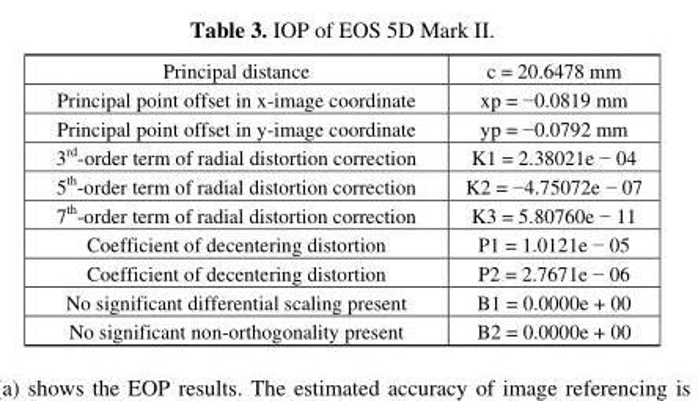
<table><tbody><tr><td>Principal distance</td><td>c = 20.6478 mm</td></tr><tr><td>Principal point offset in x-image coordinate</td><td>xp = −0.0819 mm</td></tr><tr><td>Principal point offset in y-image coordinate</td><td>yp = −0.0792 mm</td></tr><tr><td>3<sup>rd</sup>-order term of radial distortion correction</td><td>K1 = 2.38021e − 04</td></tr><tr><td>5<sup>th</sup>-order term of radial distortion correction</td><td>K2 = −4.75072e − 07</td></tr><tr><td>7<sup>th</sup>-order term of radial distortion correction</td><td>K3 = 5.80760e − 11</td></tr><tr><td>Coefficient of decentering distortion</td><td>P1 = 1.0121e − 05</td></tr><tr><td>Coefficient of decentering distortion</td><td>P2 = 2.7671e − 06</td></tr><tr><td>No significant differential scaling present</td><td>B1 = 0.0000e + 00</td></tr><tr><td>No significant non-orthogonality present</td><td>B2 = 0.0000e + 00</td></tr></tbody></table>